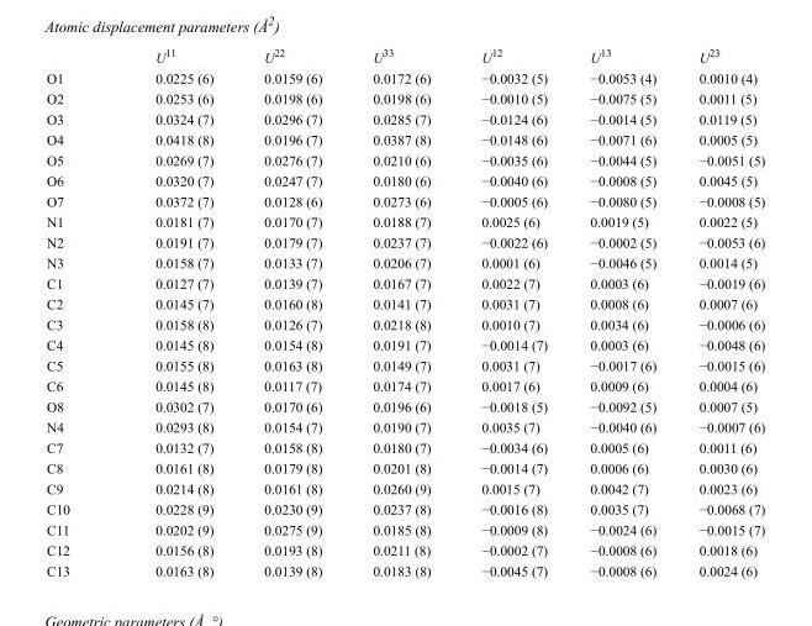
<table><thead><tr><td></td><td>U<sup>11</sup></td><td>U<sup>22</sup></td><td>U<sup>33</sup></td><td>U<sup>12</sup></td><td>U<sup>13</sup></td><td>U<sup>23</sup></td></tr></thead><tbody><tr><td>O1</td><td>0.0225 (6)</td><td>0.0159 (6)</td><td>0.0172 (6)</td><td>−0.0032 (5)</td><td>−0.0053 (4)</td><td>0.0010 (4)</td></tr><tr><td>O2</td><td>0.0253 (6)</td><td>0.0198 (6)</td><td>0.0198 (6)</td><td>−0.0010 (5)</td><td>−0.0075 (5)</td><td>0.0011 (5)</td></tr><tr><td>O3</td><td>0.0324 (7)</td><td>0.0296 (7)</td><td>0.0285 (7)</td><td>−0.0124 (6)</td><td>−0.0014 (5)</td><td>0.0119 (5)</td></tr><tr><td>O4</td><td>0.0418 (8)</td><td>0.0196 (7)</td><td>0.0387 (8)</td><td>−0.0148 (6)</td><td>−0.0071 (6)</td><td>0.0005 (5)</td></tr><tr><td>O5</td><td>0.0269 (7)</td><td>0.0276 (7)</td><td>0.0210 (6)</td><td>−0.0035 (6)</td><td>−0.0044 (5)</td><td>−0.0051 (5)</td></tr><tr><td>O6</td><td>0.0320 (7)</td><td>0.0247 (7)</td><td>0.0180 (6)</td><td>−0.0040 (6)</td><td>−0.0008 (5)</td><td>0.0045 (5)</td></tr><tr><td>O7</td><td>0.0372 (7)</td><td>0.0128 (6)</td><td>0.0273 (6)</td><td>−0.0005 (6)</td><td>−0.0080 (5)</td><td>−0.0008 (5)</td></tr><tr><td>N1</td><td>0.0181 (7)</td><td>0.0170 (7)</td><td>0.0188 (7)</td><td>0.0025 (6)</td><td>0.0019 (5)</td><td>0.0022 (5)</td></tr><tr><td>N2</td><td>0.0191 (7)</td><td>0.0179 (7)</td><td>0.0237 (7)</td><td>−0.0022 (6)</td><td>−0.0002 (5)</td><td>−0.0053 (6)</td></tr><tr><td>N3</td><td>0.0158 (7)</td><td>0.0133 (7)</td><td>0.0206 (7)</td><td>0.0001 (6)</td><td>−0.0046 (5)</td><td>0.0014 (5)</td></tr><tr><td>C1</td><td>0.0127 (7)</td><td>0.0139 (7)</td><td>0.0167 (7)</td><td>0.0022 (7)</td><td>0.0003 (6)</td><td>−0.0019 (6)</td></tr><tr><td>C2</td><td>0.0145 (7)</td><td>0.0160 (8)</td><td>0.0141 (7)</td><td>0.0031 (7)</td><td>0.0008 (6)</td><td>0.0007 (6)</td></tr><tr><td>C3</td><td>0.0158 (8)</td><td>0.0126 (7)</td><td>0.0218 (8)</td><td>0.0010 (7)</td><td>0.0034 (6)</td><td>−0.0006 (6)</td></tr><tr><td>C4</td><td>0.0145 (8)</td><td>0.0154 (8)</td><td>0.0191 (7)</td><td>−0.0014 (7)</td><td>0.0003 (6)</td><td>−0.0048 (6)</td></tr><tr><td>C5</td><td>0.0155 (8)</td><td>0.0163 (8)</td><td>0.0149 (7)</td><td>0.0031 (7)</td><td>−0.0017 (6)</td><td>−0.0015 (6)</td></tr><tr><td>C6</td><td>0.0145 (8)</td><td>0.0117 (7)</td><td>0.0174 (7)</td><td>0.0017 (6)</td><td>0.0009 (6)</td><td>0.0004 (6)</td></tr><tr><td>O8</td><td>0.0302 (7)</td><td>0.0170 (6)</td><td>0.0196 (6)</td><td>−0.0018 (5)</td><td>−0.0092 (5)</td><td>0.0007 (5)</td></tr><tr><td>N4</td><td>0.0293 (8)</td><td>0.0154 (7)</td><td>0.0190 (7)</td><td>0.0035 (7)</td><td>−0.0040 (6)</td><td>−0.0007 (6)</td></tr><tr><td>C7</td><td>0.0132 (7)</td><td>0.0158 (8)</td><td>0.0180 (7)</td><td>−0.0034 (6)</td><td>0.0005 (6)</td><td>0.0011 (6)</td></tr><tr><td>C8</td><td>0.0161 (8)</td><td>0.0179 (8)</td><td>0.0201 (8)</td><td>−0.0014 (7)</td><td>0.0006 (6)</td><td>0.0030 (6)</td></tr><tr><td>C9</td><td>0.0214 (8)</td><td>0.0161 (8)</td><td>0.0260 (9)</td><td>0.0015 (7)</td><td>0.0042 (7)</td><td>0.0023 (6)</td></tr><tr><td>C10</td><td>0.0228 (9)</td><td>0.0230 (9)</td><td>0.0237 (8)</td><td>−0.0016 (8)</td><td>0.0035 (7)</td><td>−0.0068 (7)</td></tr><tr><td>C11</td><td>0.0202 (9)</td><td>0.0275 (9)</td><td>0.0185 (8)</td><td>−0.0009 (8)</td><td>−0.0024 (6)</td><td>−0.0015 (7)</td></tr><tr><td>C12</td><td>0.0156 (8)</td><td>0.0193 (8)</td><td>0.0211 (8)</td><td>−0.0002 (7)</td><td>−0.0008 (6)</td><td>0.0018 (6)</td></tr><tr><td>C13</td><td>0.0163 (8)</td><td>0.0139 (8)</td><td>0.0183 (8)</td><td>−0.0045 (7)</td><td>−0.0008 (6)</td><td>0.0024 (6)</td></tr></tbody></table>